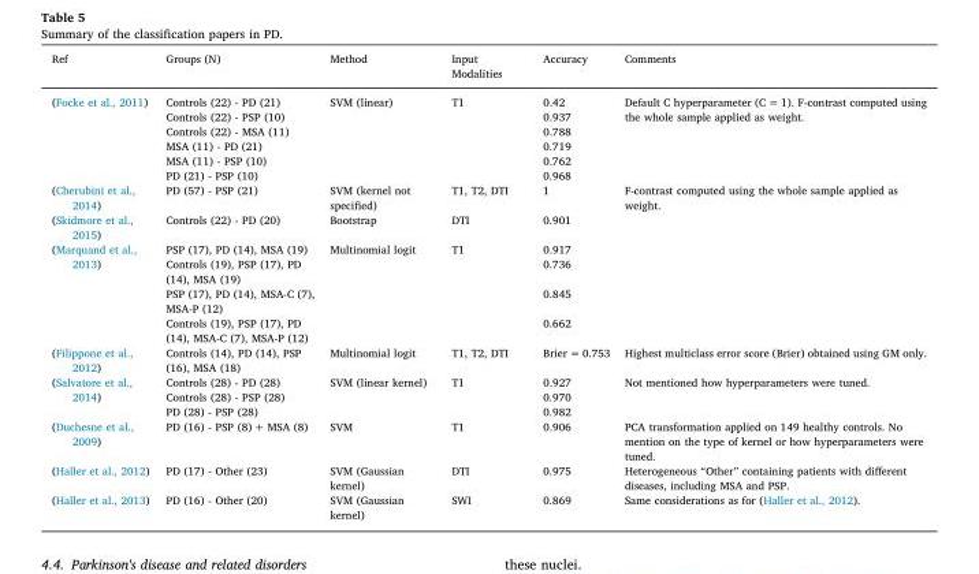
<table><thead><tr><td>Ref</td><td>Groups (N)</td><td>Method</td><td>Input Modalities</td><td>Accuracy</td><td>Comments</td></tr></thead><tbody><tr><td rowspan="6">(Focke et al., 2011)</td><td>Controls (22) - PD (21)</td><td>SVM (linear)</td><td>T1</td><td>0.42</td><td rowspan="6">Default C hyperparameter (C = 1). F-contrast computed using the whole sample applied as weight.</td></tr><tr><td>Controls (22) - PSP (10)</td><td></td><td></td><td>0.937</td></tr><tr><td>Controls (22) - MSA (11)</td><td></td><td></td><td>0.788</td></tr><tr><td>MSA (11) - PD (21)</td><td></td><td></td><td>0.719</td></tr><tr><td>MSA (11) - PSP (10)</td><td></td><td></td><td>0.762</td></tr><tr><td>PD (21) - PSP (10)</td><td></td><td></td><td>0.968</td></tr><tr><td>(Cherubini et al., 2014)</td><td>PD (57) - PSP (21)</td><td>SVM (kernel not specified)</td><td>T1, T2, DTI</td><td>1</td><td>F-contrast computed using the whole sample applied as weight.</td></tr><tr><td>(Skidmore et al., 2015)</td><td>Controls (22) - PD (20)</td><td>Bootstrap</td><td>DTI</td><td>0.901</td><td></td></tr><tr><td rowspan="4">(Marquand et al., 2013)</td><td>PSP (17), PD (14), MSA (19)</td><td>Multinomial logit</td><td>T1</td><td>0.917</td><td rowspan="4"></td></tr><tr><td>Controls (19), PSP (17), PD (14), MSA (19)</td><td></td><td></td><td>0.736</td></tr><tr><td>PSP (17), PD (14), MSA-C (7), MSA-P (12)</td><td></td><td></td><td>0.845</td></tr><tr><td>Controls (19), PSP (17), PD (14), MSA-C (7), MSA-P (12)</td><td></td><td></td><td>0.662</td></tr><tr><td rowspan="2">(Filippone et al., 2012)</td><td>Controls (14), PD (14), PSP</td><td rowspan="2">Multinomial logit</td><td rowspan="2">T1, T2, DTI</td><td rowspan="2">Brier = 0.753</td><td rowspan="2">Highest multiclass error score (Brier) obtained using GM only.</td></tr><tr><td>(16), MSA (18)</td></tr><tr><td rowspan="3">(Salvatore et al., 2014)</td><td>Controls (28) - PD (28)</td><td>SVM (linear kernel)</td><td>T1</td><td>0.927</td><td rowspan="3">Not mentioned how hyperparameters were tuned.</td></tr><tr><td>Controls (28) - PSP (28)</td><td></td><td></td><td>0.970</td></tr><tr><td>PD (28) - PSP (28)</td><td></td><td></td><td>0.982</td></tr><tr><td>(Duchesne et al., 2009)</td><td>PD (16) - PSP (8) + MSA (8)</td><td>SVM</td><td>T1</td><td>0.906</td><td>PCA transformation applied on 149 healthy controls. No mention on the type of kernel or how hyperparameters were tuned.</td></tr><tr><td>(Haller et al., 2012)</td><td>PD (17) - Other (23)</td><td>SVM (Gaussian kernel)</td><td>DTI</td><td>0.975</td><td>Heterogeneous “Other” containing patients with different diseases, including MSA and PSP.</td></tr><tr><td>(Haller et al., 2013)</td><td>PD (16) - Other (20)</td><td>SVM (Gaussian kernel)</td><td>SWI</td><td>0.869</td><td>Same considerations as for (Haller et al., 2012).</td></tr></tbody></table>